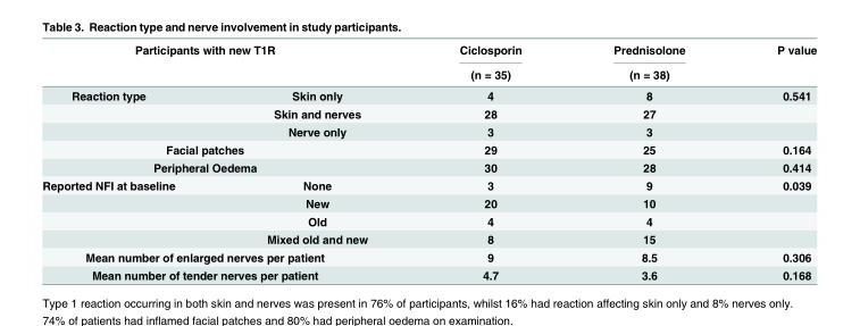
<table><thead><tr><td colspan="2">Participants with new T1R</td><td rowspan="2">Ciclosporin (n = 35)</td><td rowspan="2">Prednisolone (n = 38)</td><td rowspan="2">P value</td></tr><tr><td></td><td></td></tr></thead><tbody><tr><td rowspan="3">Reaction type</td><td>Skin only</td><td>4</td><td>8</td><td>0.541</td></tr><tr><td>Skin and nerves</td><td>28</td><td>27</td><td></td></tr><tr><td>Nerve only</td><td>3</td><td>3</td><td></td></tr><tr><td colspan="2">Facial patches</td><td>29</td><td>25</td><td>0.164</td></tr><tr><td colspan="2">Peripheral Oedema</td><td>30</td><td>28</td><td>0.414</td></tr><tr><td rowspan="4">Reported NFI at baseline</td><td>None</td><td>3</td><td>9</td><td>0.039</td></tr><tr><td>New</td><td>20</td><td>10</td><td></td></tr><tr><td>Old</td><td>4</td><td>4</td><td></td></tr><tr><td>Mixed old and new</td><td>8</td><td>15</td><td></td></tr><tr><td colspan="2">Mean number of enlarged nerves per patient</td><td>9</td><td>8.5</td><td>0.306</td></tr><tr><td colspan="2">Mean number of tender nerves per patient</td><td>4.7</td><td>3.6</td><td>0.168</td></tr></tbody></table>